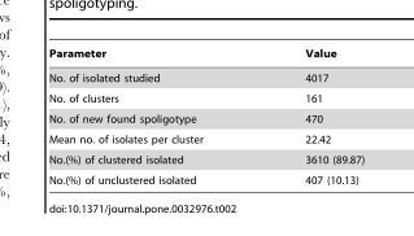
<table><thead><tr><td>Parameter</td><td>Value</td></tr></thead><tbody><tr><td>No. of isolated studied</td><td>4017</td></tr><tr><td>No. of clusters</td><td>161</td></tr><tr><td>No. of new found spoligotype</td><td>470</td></tr><tr><td>Mean no. of isolates per cluster</td><td>22.42</td></tr><tr><td>No.(%) of clustered isolated</td><td>3610 (89.87)</td></tr><tr><td>No.(%) of unclustered isolated</td><td>407 (10.13)</td></tr></tbody></table>